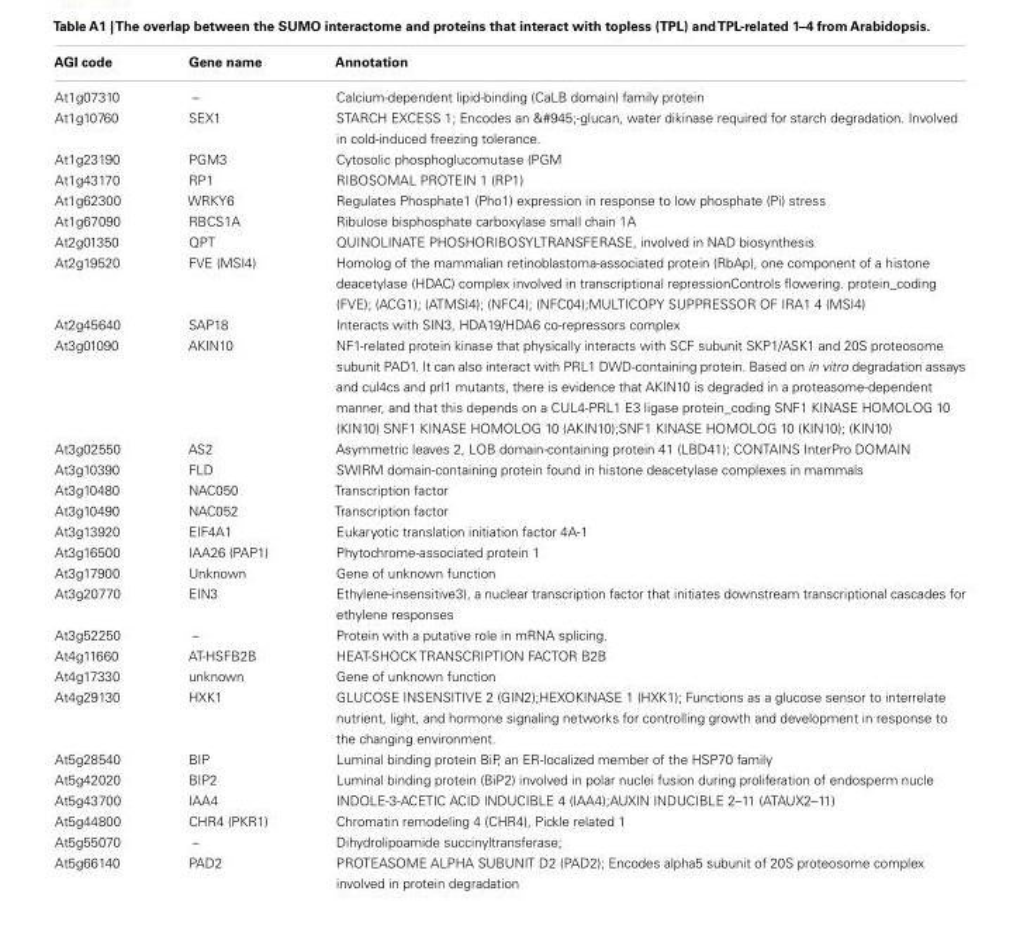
<table><thead><tr><td>AGI code</td><td>Gene name</td><td>Annotation</td></tr></thead><tbody><tr><td>At1g07310</td><td>–</td><td>Calcium-dependent lipid-binding (CaLB domain) family protein</td></tr><tr><td>At1g10760</td><td>SEX1</td><td>STARCH EXCESS 1; Encodes an &amp;#945;-glucan, water dikinase required for starch degradation. Involved in cold-induced freezing tolerance.</td></tr><tr><td>At1g23190</td><td>PGM3</td><td>Cytosolic phosphoglucomutase (PGM</td></tr><tr><td>At1g43170</td><td>RP1</td><td>RIBOSOMAL PROTEIN 1 (RP1)</td></tr><tr><td>At1g62300</td><td>WRKY6</td><td>Regulates Phosphate1 (Pho1) expression in response to low phosphate (Pi) stress</td></tr><tr><td>At1g67090</td><td>RBCS1A</td><td>Ribulose bisphosphate carboxylase small chain 1A</td></tr><tr><td>At2g01350</td><td>QPT</td><td>QUINOLINATE PHOSHORIBOSYLTRANSFERASE, involved in NAD biosynthesis</td></tr><tr><td>At2g19520</td><td>FVE (MSI4)</td><td>Homolog of the mammalian retinoblastoma-associated protein (RbAp), one component of a histone deacetylase (HDAC) complex involved in transcriptional repressionControls flowering. protein_coding (FVE); (ACG1); (ATMSI4); (NFC4); (NFC04);MULTICOPY SUPPRESSOR OF IRA1 4 (MSI4)</td></tr><tr><td>At2g45640</td><td>SAP18</td><td>Interacts with SIN3, HDA19/HDA6 co-repressors complex</td></tr><tr><td>At3g01090</td><td>AKIN10</td><td>NF1-related protein kinase that physically interacts with SCF subunit SKP1/ASK1 and 20S proteosome subunit PAD1. It can also interact with PRL1 DWD-containing protein. Based on in vitro degradation assays and cul4cs and prl1 mutants, there is evidence that AKIN10 is degraded in a proteasome-dependent manner, and that this depends on a CUL4-PRL1 E3 ligase protein_coding SNF1 KINASE HOMOLOG 10 (KIN10) SNF1 KINASE HOMOLOG 10 (AKIN10);SNF1 KINASE HOMOLOG 10 (KIN10); (KIN10)</td></tr><tr><td>At3g02550</td><td>AS2</td><td>Asymmetric leaves 2, LOB domain-containing protein 41 (LBD41); CONTAINS InterPro DOMAIN</td></tr><tr><td>At3g10390</td><td>FLD</td><td>SWIRM domain-containing protein found in histone deacetylase complexes in mammals</td></tr><tr><td>At3g10480</td><td>NAC050</td><td>Transcription factor</td></tr><tr><td>At3g10490</td><td>NAC052</td><td>Transcription factor</td></tr><tr><td>At3g13920</td><td>EIF4A1</td><td>Eukaryotic translation initiation factor 4A-1</td></tr><tr><td>At3g16500</td><td>IAA26 (PAP1)</td><td>Phytochrome-associated protein 1</td></tr><tr><td>At3g17900</td><td>Unknown</td><td>Gene of unknown function</td></tr><tr><td>At3g20770</td><td>EIN3</td><td>Ethylene-insensitive3), a nuclear transcription factor that initiates downstream transcriptional cascades for ethylene responses</td></tr><tr><td>At3g52250</td><td>–</td><td>Protein with a putative role in mRNA splicing.</td></tr><tr><td>At4g11660</td><td>AT-HSFB2B</td><td>HEAT-SHOCK TRANSCRIPTION FACTOR B2B</td></tr><tr><td>At4g17330</td><td>unknown</td><td>Gene of unknown function</td></tr><tr><td>At4g29130</td><td>HXK1</td><td>GLUCOSE INSENSITIVE 2 (GIN2);HEXOKINASE 1 (HXK1); Functions as a glucose sensor to interrelate nutrient, light, and hormone signaling networks for controlling growth and development in response to the changing environment.</td></tr><tr><td>At5g28540</td><td>BIP</td><td>Luminal binding protein BiP, an ER-localized member of the HSP70 family</td></tr><tr><td>At5g42020</td><td>BIP2</td><td>Luminal binding protein (BiP2) involved in polar nuclei fusion during proliferation of endosperm nucle</td></tr><tr><td>At5g43700</td><td>IAA4</td><td>INDOLE-3-ACETIC ACID INDUCIBLE 4 (IAA4);AUXIN INDUCIBLE 2–11 (ATAUX2–11)</td></tr><tr><td>At5g44800</td><td>CHR4 (PKR1)</td><td>Chromatin remodeling 4 (CHR4), Pickle related 1</td></tr><tr><td>At5g55070</td><td>–</td><td>Dihydrolipoamide succinyltransferase;</td></tr><tr><td>At5g66140</td><td>PAD2</td><td>PROTEASOME ALPHA SUBUNIT D2 (PAD2); Encodes alpha5 subunit of 20S proteosome complex involved in protein degradation</td></tr></tbody></table>